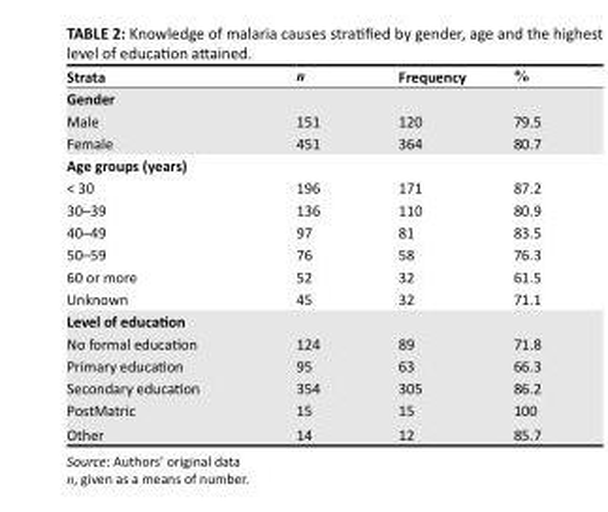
<table><thead><tr><td>Strata</td><td>n</td><td>Frequency</td><td>%</td></tr></thead><tbody><tr><td colspan="4">Gender</td></tr><tr><td>Male</td><td>151</td><td>120</td><td>79.5</td></tr><tr><td>Female</td><td>451</td><td>364</td><td>80.7</td></tr><tr><td colspan="4">Age groups (years)</td></tr><tr><td>&lt; 30</td><td>196</td><td>171</td><td>87.2</td></tr><tr><td>30–39</td><td>136</td><td>110</td><td>80.9</td></tr><tr><td>40–49</td><td>97</td><td>81</td><td>83.5</td></tr><tr><td>50–59</td><td>76</td><td>58</td><td>76.3</td></tr><tr><td>60 or more</td><td>52</td><td>32</td><td>61.5</td></tr><tr><td>Unknown</td><td>45</td><td>32</td><td>71.1</td></tr><tr><td colspan="4">Level of education</td></tr><tr><td>No formal education</td><td>124</td><td>89</td><td>71.8</td></tr><tr><td>Primary education</td><td>95</td><td>63</td><td>66.3</td></tr><tr><td>Secondary education</td><td>354</td><td>305</td><td>86.2</td></tr><tr><td>PostMatric</td><td>15</td><td>15</td><td>100</td></tr><tr><td>Other</td><td>14</td><td>12</td><td>85.7</td></tr></tbody></table>